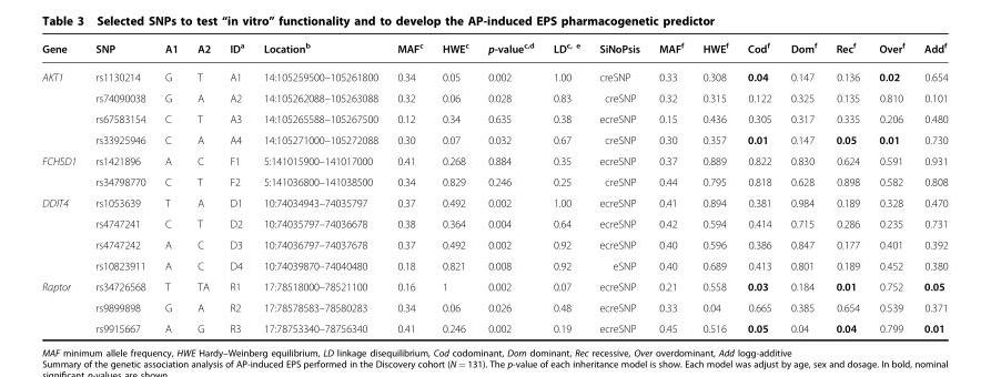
<table><thead><tr><td>Gene</td><td>SNP</td><td>A1</td><td>A2</td><td>ID<sup>a</sup></td><td>Location<sup>b</sup></td><td>MAF<sup>c</sup></td><td>HWE<sup>c</sup></td><td>p-value<sup>c,d</sup></td><td>LD<sup>c, e</sup></td><td>SiNoPsis</td><td>MAF<sup>f</sup></td><td>HWE<sup>f</sup></td><td>Cod<sup>f</sup></td><td>Dom<sup>f</sup></td><td>Rec<sup>f</sup></td><td>Over<sup>f</sup></td><td>Add<sup>f</sup></td></tr></thead><tbody><tr><td rowspan="4">AKT1</td><td>rs1130214</td><td>G</td><td>T</td><td>A1</td><td>14:105259500–105261800</td><td>0.34</td><td>0.05</td><td>0.002</td><td>1.00</td><td>creSNP</td><td>0.33</td><td>0.308</td><td>0.04</td><td>0.147</td><td>0.136</td><td>0.02</td><td>0.654</td></tr><tr><td>rs74090038</td><td>G</td><td>A</td><td>A2</td><td>14:105262088–105263088</td><td>0.32</td><td>0.06</td><td>0.028</td><td>0.83</td><td>creSNP</td><td>0.32</td><td>0.315</td><td>0.122</td><td>0.325</td><td>0.135</td><td>0.810</td><td>0.101</td></tr><tr><td>rs67583154</td><td>C</td><td>T</td><td>A3</td><td>14:105265588–105267500</td><td>0.12</td><td>0.34</td><td>0.635</td><td>0.38</td><td>ecreSNP</td><td>0.15</td><td>0.436</td><td>0.305</td><td>0.317</td><td>0.335</td><td>0.206</td><td>0.480</td></tr><tr><td>rs33925946</td><td>C</td><td>A</td><td>A4</td><td>14:105271000–105272088</td><td>0.30</td><td>0.07</td><td>0.032</td><td>0.67</td><td>creSNP</td><td>0.30</td><td>0.357</td><td>0.01</td><td>0.147</td><td>0.05</td><td>0.01</td><td>0.730</td></tr><tr><td rowspan="2">FCHSD1</td><td>rs1421896</td><td>A</td><td>C</td><td>F1</td><td>5:141015900–141017000</td><td>0.41</td><td>0.268</td><td>0.884</td><td>0.35</td><td>ecreSNP</td><td>0.37</td><td>0.889</td><td>0.822</td><td>0.830</td><td>0.624</td><td>0.591</td><td>0.931</td></tr><tr><td>rs34798770</td><td>C</td><td>T</td><td>F2</td><td>5:141036800–141038500</td><td>0.34</td><td>0.829</td><td>0.246</td><td>0.25</td><td>creSNP</td><td>0.44</td><td>0.795</td><td>0.818</td><td>0.628</td><td>0.898</td><td>0.582</td><td>0.808</td></tr><tr><td rowspan="4">DDIT4</td><td>rs1053639</td><td>T</td><td>A</td><td>D1</td><td>10:74034943–74035797</td><td>0.37</td><td>0.492</td><td>0.002</td><td>1.00</td><td>ecreSNP</td><td>0.41</td><td>0.894</td><td>0.381</td><td>0.984</td><td>0.189</td><td>0.328</td><td>0.470</td></tr><tr><td>rs4747241</td><td>C</td><td>T</td><td>D2</td><td>10:74035797–74036678</td><td>0.38</td><td>0.364</td><td>0.004</td><td>0.64</td><td>ecreSNP</td><td>0.42</td><td>0.594</td><td>0.414</td><td>0.715</td><td>0.286</td><td>0.235</td><td>0.731</td></tr><tr><td>rs4747242</td><td>A</td><td>C</td><td>D3</td><td>10:74036797–74037678</td><td>0.37</td><td>0.492</td><td>0.002</td><td>0.92</td><td>ecreSNP</td><td>0.40</td><td>0.596</td><td>0.386</td><td>0.847</td><td>0.177</td><td>0.401</td><td>0.392</td></tr><tr><td>rs10823911</td><td>A</td><td>C</td><td>D4</td><td>10:74039870–74040480</td><td>0.18</td><td>0.821</td><td>0.008</td><td>0.92</td><td>eSNP</td><td>0.40</td><td>0.689</td><td>0.413</td><td>0.801</td><td>0.189</td><td>0.452</td><td>0.380</td></tr><tr><td rowspan="3">Raptor</td><td>rs34726568</td><td>T</td><td>TA</td><td>R1</td><td>17:78518000–78521100</td><td>0.16</td><td>1</td><td>0.002</td><td>0.07</td><td>ecreSNP</td><td>0.21</td><td>0.558</td><td>0.03</td><td>0.184</td><td>0.01</td><td>0.752</td><td>0.05</td></tr><tr><td>rs9899898</td><td>G</td><td>A</td><td>R2</td><td>17:78578583–78580283</td><td>0.34</td><td>0.06</td><td>0.026</td><td>0.48</td><td>ecreSNP</td><td>0.33</td><td>0.04</td><td>0.665</td><td>0.385</td><td>0.654</td><td>0.539</td><td>0.371</td></tr><tr><td>rs9915667</td><td>A</td><td>G</td><td>R3</td><td>17:78753340–78756340</td><td>0.41</td><td>0.246</td><td>0.002</td><td>0.19</td><td>ecreSNP</td><td>0.45</td><td>0.516</td><td>0.05</td><td>0.04</td><td>0.04</td><td>0.799</td><td>0.01</td></tr></tbody></table>